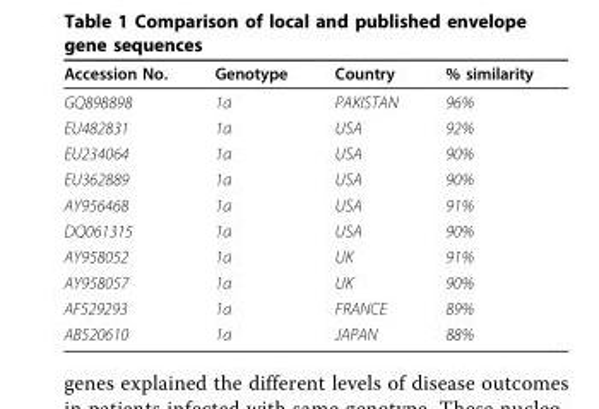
<table><thead><tr><td>Accession No.</td><td>Genotype</td><td>Country</td><td>% similarity</td></tr></thead><tbody><tr><td>GQ898898</td><td>1a</td><td>PAKISTAN</td><td>96%</td></tr><tr><td>EU482831</td><td>1a</td><td>USA</td><td>92%</td></tr><tr><td>EU234064</td><td>1a</td><td>USA</td><td>90%</td></tr><tr><td>EU362889</td><td>1a</td><td>USA</td><td>90%</td></tr><tr><td>AY956468</td><td>1a</td><td>USA</td><td>91%</td></tr><tr><td>DQ061315</td><td>1a</td><td>USA</td><td>90%</td></tr><tr><td>AY958052</td><td>1a</td><td>UK</td><td>91%</td></tr><tr><td>AY958057</td><td>1a</td><td>UK</td><td>90%</td></tr><tr><td>AF529293</td><td>1a</td><td>FRANCE</td><td>89%</td></tr><tr><td>AB520610</td><td>1a</td><td>JAPAN</td><td>88%</td></tr></tbody></table>